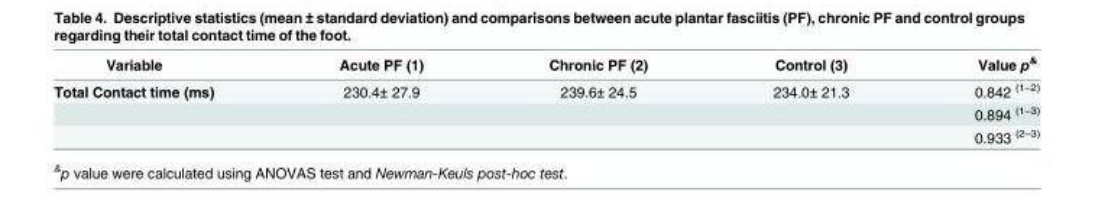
<table><thead><tr><td>Variable</td><td>Acute PF (1)</td><td>Chronic PF (2)</td><td>Control (3)</td><td>Value p<sup>&amp;</sup></td></tr></thead><tbody><tr><td rowspan="3">Total Contact time (ms)</td><td>230.4± 27.9</td><td>239.6± 24.5</td><td>234.0± 21.3</td><td>0.842 <sup>(1–2)</sup></td></tr><tr><td></td><td></td><td></td><td>0.894 <sup>(1–3)</sup></td></tr><tr><td></td><td></td><td></td><td>0.933 <sup>(2–3)</sup></td></tr></tbody></table>